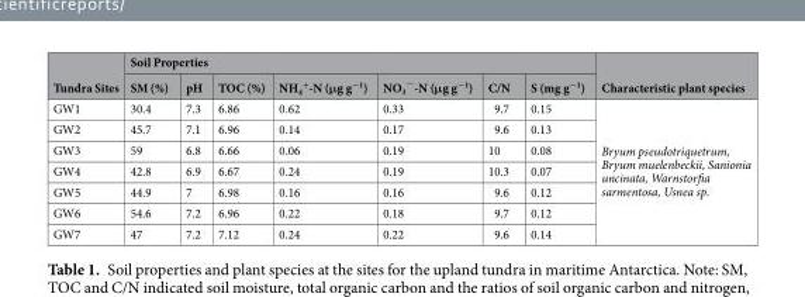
<table><thead><tr><td rowspan="2">Tundra Sites</td><td colspan="7">Soil Properties</td><td rowspan="2">Characteristic plant species</td></tr><tr><td>SM (%)</td><td>pH</td><td>TOC (%)</td><td>NH<sub>4</sub> <sup>+</sup>-N (μg g<sup>−1</sup>)</td><td>NO<sub>3</sub><sup>−</sup>-N (μg g<sup>−1</sup>)</td><td>C/N</td><td>S (mg g<sup>−1</sup>)</td></tr></thead><tbody><tr><td>GW1</td><td>30.4</td><td>7.3</td><td>6.86</td><td>0.62</td><td>0.33</td><td>9.7</td><td>0.15</td><td rowspan="7">Bryum pseudotriquetrum, Bryum muelenbeckii, Sanionia uncinata, Warnstorfia sarmentosa, Usnea sp.</td></tr><tr><td>GW2</td><td>45.7</td><td>7.1</td><td>6.96</td><td>0.14</td><td>0.17</td><td>9.6</td><td>0.13</td></tr><tr><td>GW3</td><td>59</td><td>6.8</td><td>6.66</td><td>0.06</td><td>0.19</td><td>10</td><td>0.08</td></tr><tr><td>GW4</td><td>42.8</td><td>6.9</td><td>6.67</td><td>0.24</td><td>0.19</td><td>10.3</td><td>0.07</td></tr><tr><td>GW5</td><td>44.9</td><td>7</td><td>6.98</td><td>0.16</td><td>0.16</td><td>9.6</td><td>0.12</td></tr><tr><td>GW6</td><td>54.6</td><td>7.2</td><td>6.96</td><td>0.22</td><td>0.18</td><td>9.7</td><td>0.12</td></tr><tr><td>GW7</td><td>47</td><td>7.2</td><td>7.12</td><td>0.24</td><td>0.22</td><td>9.6</td><td>0.14</td></tr></tbody></table>